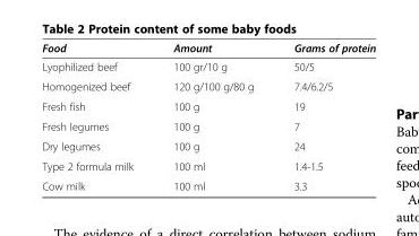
<table><thead><tr><td>Food</td><td>Amount</td><td>Grams of protein</td></tr></thead><tbody><tr><td>Lyophilized beef</td><td>100 gr/10 g</td><td>50/5</td></tr><tr><td>Homogenized beef</td><td>120 g/100 g/80 g</td><td>7.4/6.2/5</td></tr><tr><td>Fresh fish</td><td>100 g</td><td>19</td></tr><tr><td>Fresh legumes</td><td>100 g</td><td>7</td></tr><tr><td>Dry legumes</td><td>100 g</td><td>24</td></tr><tr><td>Type 2 formula milk</td><td>100 ml</td><td>1.4-1.5</td></tr><tr><td>Cow milk</td><td>100 ml</td><td>3.3</td></tr></tbody></table>